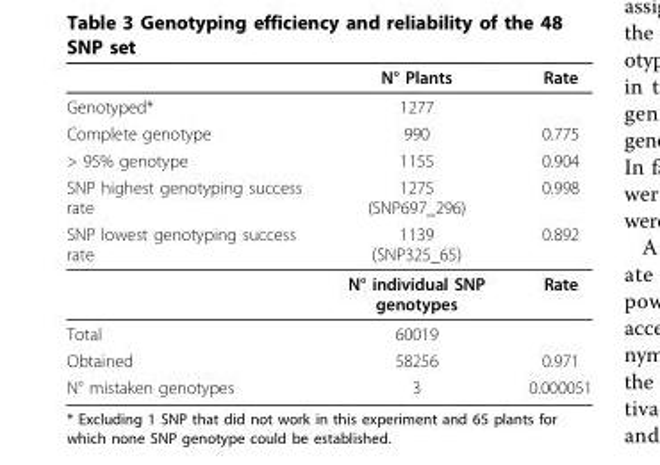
<table><thead><tr><td></td><td>N° Plants</td><td>Rate</td></tr></thead><tbody><tr><td>Genotyped*</td><td>1277</td><td></td></tr><tr><td>Complete genotype</td><td>990</td><td>0.775</td></tr><tr><td>&gt; 95% genotype</td><td>1155</td><td>0.904</td></tr><tr><td>SNP highest genotyping success rate</td><td>1275 (SNP697_296)</td><td>0.998</td></tr><tr><td rowspan="2">SNP lowest genotyping success rate</td><td>1139 (SNP325_65)</td><td>0.892</td></tr><tr><td>N° individual SNP genotypes</td><td>Rate</td></tr><tr><td>Total</td><td>60019</td><td></td></tr><tr><td>Obtained</td><td>58256</td><td>0.971</td></tr><tr><td>N° mistaken genotypes</td><td>3</td><td>0.000051</td></tr></tbody></table>